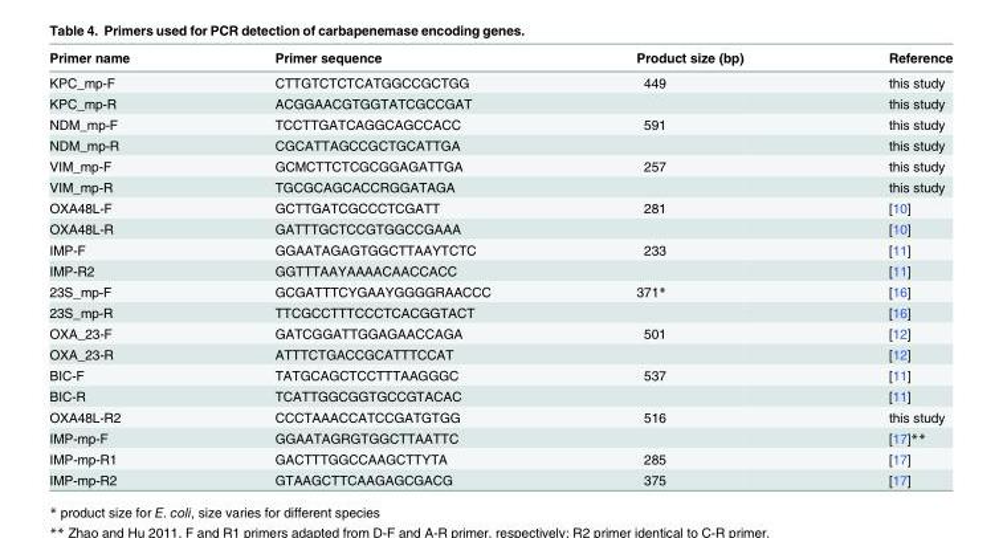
<table><thead><tr><td>Primer name</td><td>Primer sequence</td><td>Product size (bp)</td><td>Reference</td></tr></thead><tbody><tr><td>KPC_mp-F</td><td>CTTGTCTCTCATGGCCGCTGG</td><td>449</td><td>this study</td></tr><tr><td>KPC_mp-R</td><td>ACGGAACGTGGTATCGCCGAT</td><td></td><td>this study</td></tr><tr><td>NDM_mp-F</td><td>TCCTTGATCAGGCAGCCACC</td><td>591</td><td>this study</td></tr><tr><td>NDM_mp-R</td><td>CGCATTAGCCGCTGCATTGA</td><td></td><td>this study</td></tr><tr><td>VIM_mp-F</td><td>GCMCTTCTCGCGGAGATTGA</td><td>257</td><td>this study</td></tr><tr><td>VIM_mp-R</td><td>TGCGCAGCACCRGGATAGA</td><td></td><td>this study</td></tr><tr><td>OXA48L-F</td><td>GCTTGATCGCCCTCGATT</td><td>281</td><td>[10]</td></tr><tr><td>OXA48L-R</td><td>GATTTGCTCCGTGGCCGAAA</td><td></td><td>[10]</td></tr><tr><td>IMP-F</td><td>GGAATAGAGTGGCTTAAYTCTC</td><td>233</td><td>[11]</td></tr><tr><td>IMP-R2</td><td>GGTTTAAYAAAACAACCACC</td><td></td><td>[11]</td></tr><tr><td>23S_mp-F</td><td>GCGATTTCYGAAYGGGGRAACCC</td><td>371*</td><td>[16]</td></tr><tr><td>23S_mp-R</td><td>TTCGCCTTTCCCTCACGGTACT</td><td></td><td>[16]</td></tr><tr><td>OXA_23-F</td><td>GATCGGATTGGAGAACCAGA</td><td>501</td><td>[12]</td></tr><tr><td>OXA_23-R</td><td>ATTTCTGACCGCATTTCCAT</td><td></td><td>[12]</td></tr><tr><td>BIC-F</td><td>TATGCAGCTCCTTTAAGGGC</td><td>537</td><td>[11]</td></tr><tr><td>BIC-R</td><td>TCATTGGCGGTGCCGTACAC</td><td></td><td>[11]</td></tr><tr><td>OXA48L-R2</td><td>CCCTAAACCATCCGATGTGG</td><td>516</td><td>this study</td></tr><tr><td>IMP-mp-F</td><td>GGAATAGRGTGGCTTAATTC</td><td></td><td>[17]**</td></tr><tr><td>IMP-mp-R1</td><td>GACTTTGGCCAAGCTTYTA</td><td>285</td><td>[17]</td></tr><tr><td>IMP-mp-R2</td><td>GTAAGCTTCAAGAGCGACG</td><td>375</td><td>[17]</td></tr></tbody></table>